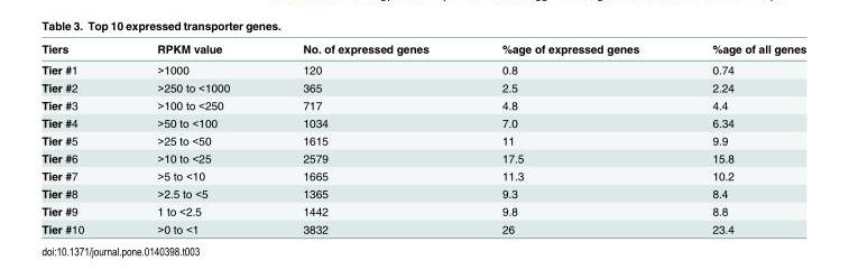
<table><thead><tr><td>Tiers</td><td>RPKM value</td><td>No. of expressed genes</td><td>%age of expressed genes</td><td>%age of all genes</td></tr></thead><tbody><tr><td>Tier #1</td><td>&gt;1000</td><td>120</td><td>0.8</td><td>0.74</td></tr><tr><td>Tier #2</td><td>&gt;250 to &lt;1000</td><td>365</td><td>2.5</td><td>2.24</td></tr><tr><td>Tier #3</td><td>&gt;100 to &lt;250</td><td>717</td><td>4.8</td><td>4.4</td></tr><tr><td>Tier #4</td><td>&gt;50 to &lt;100</td><td>1034</td><td>7.0</td><td>6.34</td></tr><tr><td>Tier #5</td><td>&gt;25 to &lt;50</td><td>1615</td><td>11</td><td>9.9</td></tr><tr><td>Tier #6</td><td>&gt;10 to &lt;25</td><td>2579</td><td>17.5</td><td>15.8</td></tr><tr><td>Tier #7</td><td>&gt;5 to &lt;10</td><td>1665</td><td>11.3</td><td>10.2</td></tr><tr><td>Tier #8</td><td>&gt;2.5 to &lt;5</td><td>1365</td><td>9.3</td><td>8.4</td></tr><tr><td>Tier #9</td><td>1 to &lt;2.5</td><td>1442</td><td>9.8</td><td>8.8</td></tr><tr><td>Tier #10</td><td>&gt;0 to &lt;1</td><td>3832</td><td>26</td><td>23.4</td></tr></tbody></table>